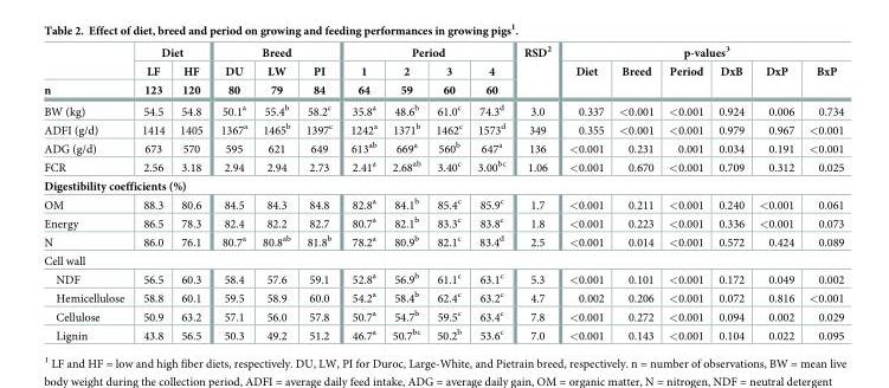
<table><thead><tr><td rowspan="3">n</td><td colspan="2">Diet</td><td colspan="3">Breed</td><td colspan="4">Period</td><td rowspan="3">RSD<sup>2</sup></td><td colspan="6">p-values<sup>3</sup></td></tr><tr><td rowspan="2">LF 123</td><td rowspan="2">HF 120</td><td rowspan="2">DU 80</td><td rowspan="2">LW 79</td><td rowspan="2">PI 84</td><td rowspan="2">1 64</td><td rowspan="2">2 59</td><td rowspan="2">3 60</td><td rowspan="2">4 60</td><td rowspan="2">Diet</td><td rowspan="2">Breed</td><td rowspan="2">Period</td><td rowspan="2">DxB</td><td rowspan="2">DxP</td><td rowspan="2">BxP</td></tr><tr></tr></thead><tbody><tr><td>BW (kg)</td><td>54.5</td><td>54.8</td><td>50.1<sup>a</sup></td><td>55.4<sup>b</sup></td><td>58.2<sup>c</sup></td><td>35.8<sup>a</sup></td><td>48.6<sup>b</sup></td><td>61.0<sup>c</sup></td><td>74.3<sup>d</sup></td><td>3.0</td><td>0.337</td><td>&lt;0.001</td><td>&lt;0.001</td><td>0.924</td><td>0.006</td><td>0.734</td></tr><tr><td>ADFI (g/d)</td><td>1414</td><td>1405</td><td>1367<sup>a</sup></td><td>1465<sup>b</sup></td><td>1397<sup>c</sup></td><td>1242<sup>a</sup></td><td>1371<sup>b</sup></td><td>1462<sup>c</sup></td><td>1573<sup>d</sup></td><td>349</td><td>0.355</td><td>&lt;0.001</td><td>&lt;0.001</td><td>0.979</td><td>0.967</td><td>&lt;0.001</td></tr><tr><td>ADG (g/d)</td><td>673</td><td>570</td><td>595</td><td>621</td><td>649</td><td>613<sup>ab</sup></td><td>669<sup>a</sup></td><td>560<sup>b</sup></td><td>647<sup>a</sup></td><td>136</td><td>&lt;0.001</td><td>0.231</td><td>0.001</td><td>0.034</td><td>0.191</td><td>&lt;0.001</td></tr><tr><td>FCR</td><td>2.56</td><td>3.18</td><td>2.94</td><td>2.94</td><td>2.73</td><td>2.41<sup>a</sup></td><td>2.68<sup>ab</sup></td><td>3.40<sup>c</sup></td><td>3.00<sup>bc</sup></td><td>1.06</td><td>&lt;0.001</td><td>0.670</td><td>&lt;0.001</td><td>0.709</td><td>0.312</td><td>0.025</td></tr><tr><td colspan="17">Digestibility coefficients (%)</td></tr><tr><td>OM</td><td>88.3</td><td>80.6</td><td>84.5</td><td>84.3</td><td>84.8</td><td>82.8<sup>a</sup></td><td>84.1<sup>b</sup></td><td>85.4<sup>c</sup></td><td>85.9<sup>c</sup></td><td>1.7</td><td>&lt;0.001</td><td>0.211</td><td>&lt;0.001</td><td>0.240</td><td>&lt;0.001</td><td>0.061</td></tr><tr><td>Energy</td><td>86.5</td><td>78.3</td><td>82.4</td><td>82.2</td><td>82.7</td><td>80.7<sup>a</sup></td><td>82.1<sup>b</sup></td><td>83.3<sup>c</sup></td><td>83.8<sup>c</sup></td><td>1.8</td><td>&lt;0.001</td><td>0.223</td><td>&lt;0.001</td><td>0.336</td><td>&lt;0.001</td><td>0.073</td></tr><tr><td>N</td><td>86.0</td><td>76.1</td><td>80.7<sup>a</sup></td><td>80.8<sup>ab</sup></td><td>81.8<sup>b</sup></td><td>78.2<sup>a</sup></td><td>80.9<sup>b</sup></td><td>82.1<sup>c</sup></td><td>83.4<sup>d</sup></td><td>2.5</td><td>&lt;0.001</td><td>0.014</td><td>&lt;0.001</td><td>0.572</td><td>0.424</td><td>0.089</td></tr><tr><td colspan="17">Cell wall</td></tr><tr><td>NDF</td><td>56.5</td><td>60.3</td><td>58.4</td><td>57.6</td><td>59.1</td><td>52.8<sup>a</sup></td><td>56.9<sup>b</sup></td><td>61.1<sup>c</sup></td><td>63.1<sup>c</sup></td><td>5.3</td><td>&lt;0.001</td><td>0.101</td><td>&lt;0.001</td><td>0.172</td><td>0.049</td><td>0.002</td></tr><tr><td>Hemicellulose</td><td>58.8</td><td>60.1</td><td>59.5</td><td>58.9</td><td>60.0</td><td>54.2<sup>a</sup></td><td>58.4<sup>b</sup></td><td>62.4<sup>c</sup></td><td>63.2<sup>c</sup></td><td>4.7</td><td>0.002</td><td>0.206</td><td>&lt;0.001</td><td>0.072</td><td>0.816</td><td>&lt;0.001</td></tr><tr><td>Cellulose</td><td>50.9</td><td>63.2</td><td>57.1</td><td>56.0</td><td>57.8</td><td>50.7<sup>a</sup></td><td>54.7<sup>b</sup></td><td>59.5<sup>c</sup></td><td>63.4<sup>c</sup></td><td>7.8</td><td>&lt;0.001</td><td>0.272</td><td>&lt;0.001</td><td>0.094</td><td>0.002</td><td>0.029</td></tr><tr><td>Lignin</td><td>43.8</td><td>56.5</td><td>50.3</td><td>49.2</td><td>51.2</td><td>46.7<sup>a</sup></td><td>50.7<sup>bc</sup></td><td>50.2<sup>b</sup></td><td>53.6<sup>c</sup></td><td>7.0</td><td>&lt;0.001</td><td>0.143</td><td>&lt;0.001</td><td>0.104</td><td>0.022</td><td>0.095</td></tr></tbody></table>